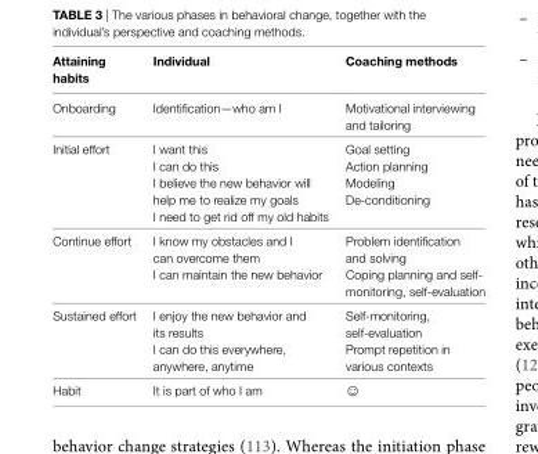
<table><thead><tr><td>Attaining habits</td><td>individual</td><td>Coaching methods</td></tr></thead><tbody><tr><td>Onboarding</td><td>Identification—who am I</td><td>Motivational interviewing and tailoring</td></tr><tr><td>Initial effort</td><td>I want this I can do this I believe the new behavior will help me to realize my goals I need to get rid off my old habits</td><td>Goal setting Action planning Modeling De-conditioning</td></tr><tr><td>Continue effort</td><td>I know my obstacles and I can overcome them I can maintain the new behavior</td><td>Problem identification and solving Coping planning and self- monitoring, self-evaluation</td></tr><tr><td>Sustained effort</td><td>I enjoy the new behavior and its results I can do this everywhere, anywhere, anytime</td><td>Self-monitoring, self-evaluation Prompt repetition in various contexts</td></tr><tr><td>Habit</td><td>It is part of who I am</td><td>☺</td></tr></tbody></table>